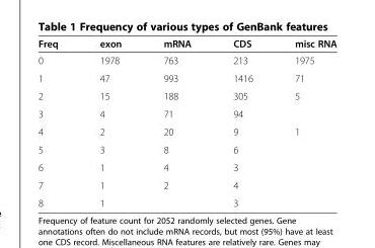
<table><thead><tr><td>Freq</td><td>exon</td><td>mRNA</td><td>CDS</td><td>misc RNA</td></tr></thead><tbody><tr><td>0</td><td>1978</td><td>763</td><td>213</td><td>1975</td></tr><tr><td>1</td><td>47</td><td>993</td><td>1416</td><td>71</td></tr><tr><td>2</td><td>15</td><td>188</td><td>305</td><td>5</td></tr><tr><td>3</td><td>4</td><td>71</td><td>94</td><td></td></tr><tr><td>4</td><td>2</td><td>20</td><td>9</td><td>1</td></tr><tr><td>5</td><td>3</td><td>8</td><td>6</td><td></td></tr><tr><td>6</td><td>1</td><td>4</td><td>3</td><td></td></tr><tr><td>7</td><td>1</td><td>2</td><td>4</td><td></td></tr><tr><td>8</td><td>1</td><td></td><td>3</td><td></td></tr></tbody></table>